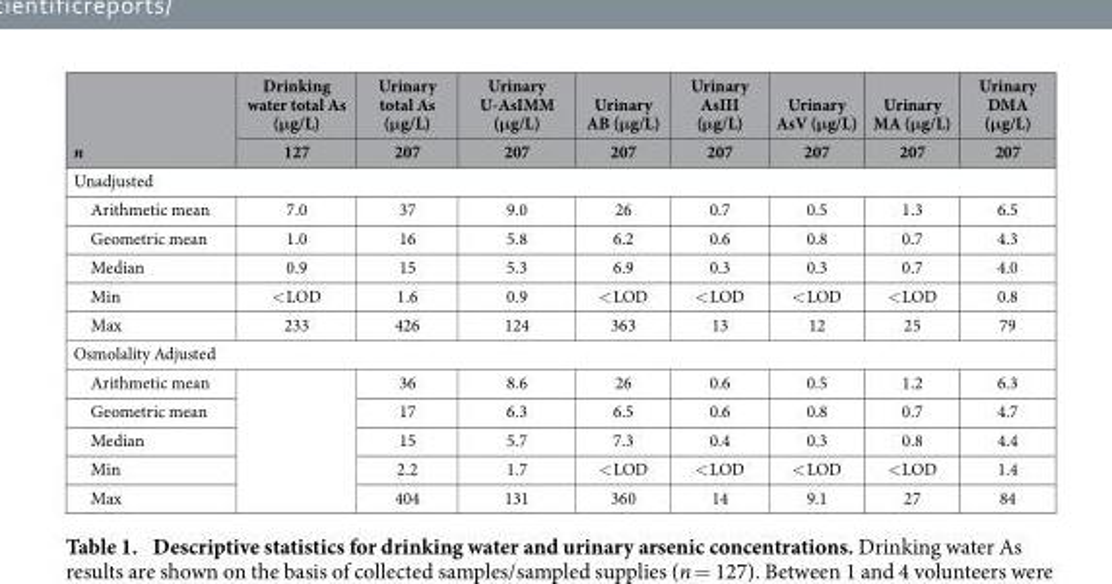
<table><thead><tr><td rowspan="2">n</td><td rowspan="2">Drinking water total As (μg/L) 127</td><td rowspan="2">Urinary total As (μg/L) 207</td><td rowspan="2">Urinary U-AsIMM (μg/L) 207</td><td rowspan="2">Urinary AB (μg/L) 207</td><td rowspan="2">Urinary AsIII (μg/L) 207</td><td rowspan="2">Urinary AsV (μg/L) 207</td><td rowspan="2">Urinary MA (μg/L) 207</td><td rowspan="2">Urinary DMA (μg/L) 207</td></tr><tr></tr></thead><tbody><tr><td colspan="9">Unadjusted</td></tr><tr><td>Arithmetic mean</td><td>7.0</td><td>37</td><td>9.0</td><td>26</td><td>0.7</td><td>0.5</td><td>1.3</td><td>6.5</td></tr><tr><td>Geometric mean</td><td>1.0</td><td>16</td><td>5.8</td><td>6.2</td><td>0.6</td><td>0.8</td><td>0.7</td><td>4.3</td></tr><tr><td>Median</td><td>0.9</td><td>15</td><td>5.3</td><td>6.9</td><td>0.3</td><td>0.3</td><td>0.7</td><td>4.0</td></tr><tr><td>Min</td><td>&lt; LOD</td><td>1.6</td><td>0.9</td><td>&lt; LOD</td><td>&lt; LOD</td><td>&lt; LOD</td><td>&lt; LOD</td><td>0.8</td></tr><tr><td>Max</td><td>233</td><td>426</td><td>124</td><td>363</td><td>13</td><td>12</td><td>25</td><td>79</td></tr><tr><td colspan="9">Osmolality Adjusted</td></tr><tr><td>Arithmetic mean</td><td rowspan="5"></td><td>36</td><td>8.6</td><td>26</td><td>0.6</td><td>0.5</td><td>1.2</td><td>6.3</td></tr><tr><td>Geometric mean</td><td>17</td><td>6.3</td><td>6.5</td><td>0.6</td><td>0.8</td><td>0.7</td><td>4.7</td></tr><tr><td>Median</td><td>15</td><td>5.7</td><td>7.3</td><td>0.4</td><td>0.3</td><td>0.8</td><td>4.4</td></tr><tr><td>Min</td><td>2.2</td><td>1.7</td><td>&lt; LOD</td><td>&lt; LOD</td><td>&lt; LOD</td><td>&lt; LOD</td><td>1.4</td></tr><tr><td>Max</td><td>404</td><td>131</td><td>360</td><td>14</td><td>9.1</td><td>27</td><td>84</td></tr></tbody></table>